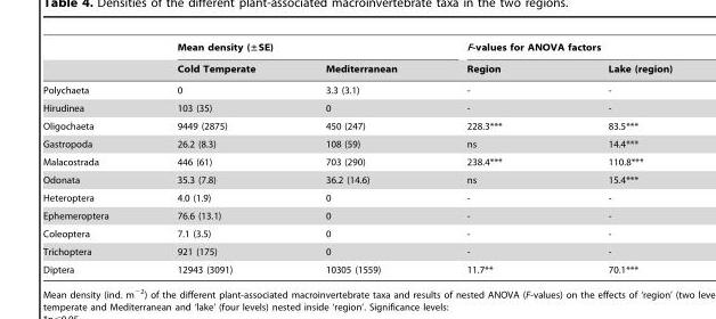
<table><thead><tr><td rowspan="2"></td><td colspan="2">Mean density (±SE)</td><td colspan="2">F-values for ANOVA factors</td></tr><tr><td>Cold Temperate</td><td>Mediterranean</td><td>Region</td><td>Lake (region)</td></tr></thead><tbody><tr><td>Polychaeta</td><td>0</td><td>3.3 (3.1)</td><td>-</td><td>-</td></tr><tr><td>Hirudinea</td><td>103 (35)</td><td>0</td><td>-</td><td>-</td></tr><tr><td>Oligochaeta</td><td>9449 (2875)</td><td>450 (247)</td><td>228.3***</td><td>83.5***</td></tr><tr><td>Gastropoda</td><td>26.2 (8.3)</td><td>108 (59)</td><td>ns</td><td>14.4***</td></tr><tr><td>Malacostrada</td><td>446 (61)</td><td>703 (290)</td><td>238.4***</td><td>110.8***</td></tr><tr><td>Odonata</td><td>35.3 (7.8)</td><td>36.2 (14.6)</td><td>ns</td><td>15.4***</td></tr><tr><td>Heteroptera</td><td>4.0 (1.9)</td><td>0</td><td>-</td><td>-</td></tr><tr><td>Ephemeroptera</td><td>76.6 (13.1)</td><td>0</td><td>-</td><td>-</td></tr><tr><td>Coleoptera</td><td>7.1 (3.5)</td><td>0</td><td>-</td><td>-</td></tr><tr><td>Trichoptera</td><td>921 (175)</td><td>0</td><td>-</td><td>-</td></tr><tr><td>Diptera</td><td>12943 (3091)</td><td>10305 (1559)</td><td>11.7**</td><td>70.1***</td></tr></tbody></table>